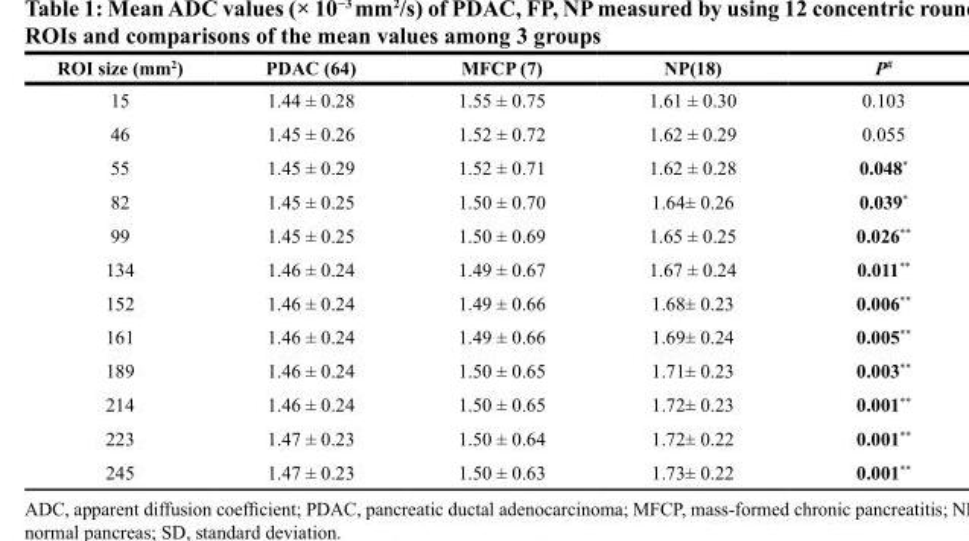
<table><thead><tr><td>ROI size (mm<sup>2</sup>)</td><td>PDAC (64)</td><td>MFCP (7)</td><td>NP(18)</td><td>P<sup>#</sup></td></tr></thead><tbody><tr><td>15</td><td>1.44 ± 0.28</td><td>1.55 ± 0.75</td><td>1.61 ± 0.30</td><td>0.103</td></tr><tr><td>46</td><td>1.45 ± 0.26</td><td>1.52 ± 0.72</td><td>1.62 ± 0.29</td><td>0.055</td></tr><tr><td>55</td><td>1.45 ± 0.29</td><td>1.52 ± 0.71</td><td>1.62 ± 0.28</td><td>0.048*</td></tr><tr><td>82</td><td>1.45 ± 0.25</td><td>1.50 ± 0.70</td><td>1.64± 0.26</td><td>0.039*</td></tr><tr><td>99</td><td>1.45 ± 0.25</td><td>1.50 ± 0.69</td><td>1.65 ± 0.25</td><td>0.026**</td></tr><tr><td>134</td><td>1.46 ± 0.24</td><td>1.49 ± 0.67</td><td>1.67 ± 0.24</td><td>0.011**</td></tr><tr><td>152</td><td>1.46 ± 0.24</td><td>1.49 ± 0.66</td><td>1.68± 0.23</td><td>0.006**</td></tr><tr><td>161</td><td>1.46 ± 0.24</td><td>1.49 ± 0.66</td><td>1.69± 0.24</td><td>0.005**</td></tr><tr><td>189</td><td>1.46 ± 0.24</td><td>1.50 ± 0.65</td><td>1.71± 0.23</td><td>0.003**</td></tr><tr><td>214</td><td>1.46 ± 0.24</td><td>1.50 ± 0.65</td><td>1.72± 0.23</td><td>0.001**</td></tr><tr><td>223</td><td>1.47 ± 0.23</td><td>1.50 ± 0.64</td><td>1.72± 0.22</td><td>0.001**</td></tr><tr><td>245</td><td>1.47 ± 0.23</td><td>1.50 ± 0.63</td><td>1.73± 0.22</td><td>0.001**</td></tr></tbody></table>